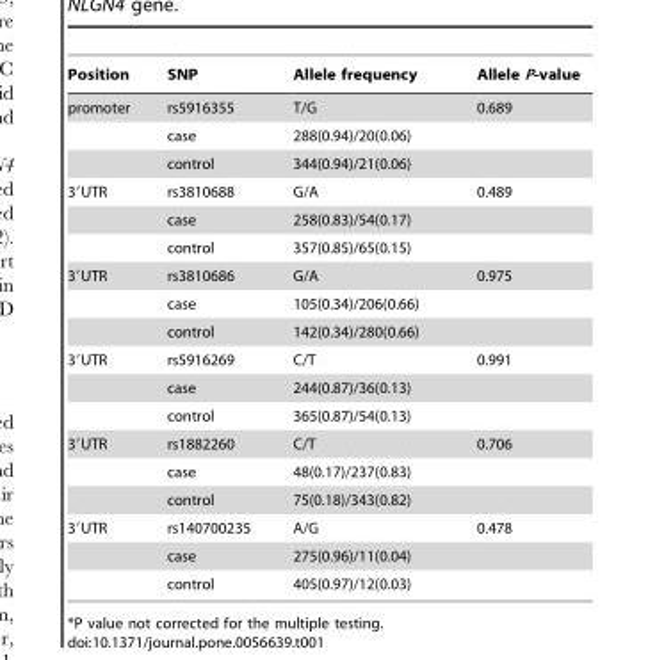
<table><thead><tr><td>Position</td><td>SNP</td><td>Allele frequency</td><td>Allele P-value</td></tr></thead><tbody><tr><td rowspan="3">promoter</td><td>rs5916355</td><td>T/G</td><td>0.689</td></tr><tr><td>case</td><td>288(0.94)/20(0.06)</td><td></td></tr><tr><td>control</td><td>344(0.94)/21(0.06)</td><td></td></tr><tr><td rowspan="3">3′UTR</td><td>rs3810688</td><td>G/A</td><td>0.489</td></tr><tr><td>case</td><td>258(0.83)/54(0.17)</td><td></td></tr><tr><td>control</td><td>357(0.85)/65(0.15)</td><td></td></tr><tr><td rowspan="3">3′UTR</td><td>rs3810686</td><td>G/A</td><td>0.975</td></tr><tr><td>case</td><td>105(0.34)/206(0.66)</td><td></td></tr><tr><td>control</td><td>142(0.34)/280(0.66)</td><td></td></tr><tr><td rowspan="3">3′UTR</td><td>rs5916269</td><td>C/T</td><td>0.991</td></tr><tr><td>case</td><td>244(0.87)/36(0.13)</td><td></td></tr><tr><td>control</td><td>365(0.87)/54(0.13)</td><td></td></tr><tr><td rowspan="3">3′UTR</td><td>rs1882260</td><td>C/T</td><td>0.706</td></tr><tr><td>case</td><td>48(0.17)/237(0.83)</td><td></td></tr><tr><td>control</td><td>75(0.18)/343(0.82)</td><td></td></tr><tr><td rowspan="3">3′UTR</td><td>rs140700235</td><td>A/G</td><td>0.478</td></tr><tr><td>case</td><td>275(0.96)/11(0.04)</td><td></td></tr><tr><td>control</td><td>405(0.97)/12(0.03)</td><td></td></tr></tbody></table>